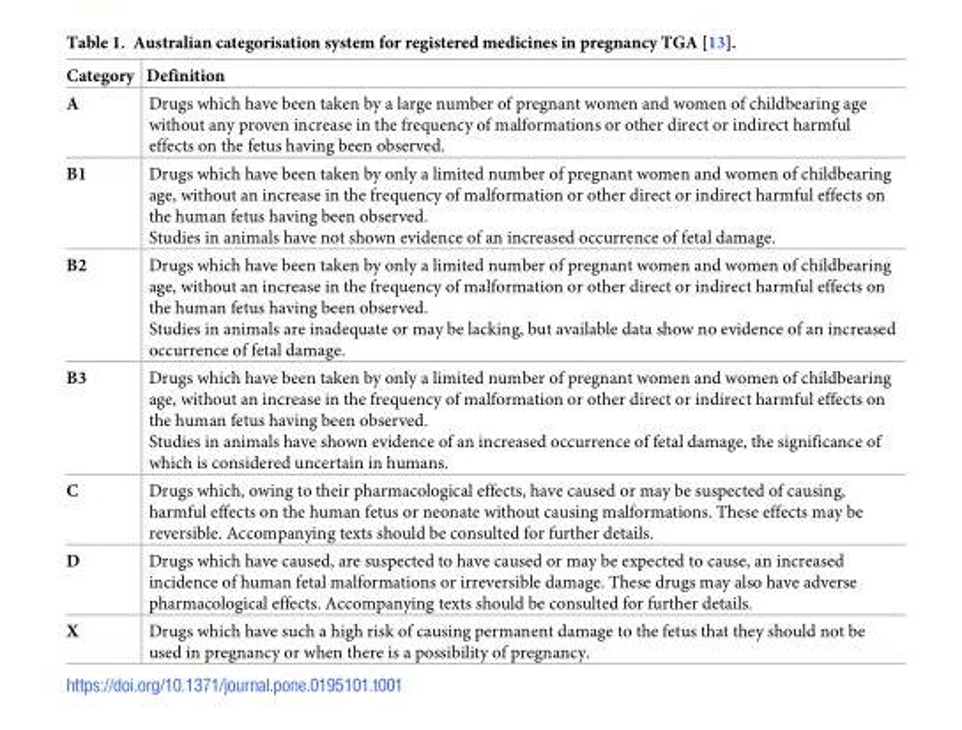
<table><thead><tr><td>Category</td><td>Definition</td></tr></thead><tbody><tr><td>A</td><td>Drugs which have been taken by a large number of pregnant women and women of childbearing age without any proven increase in the frequency of malformations or other direct or indirect harmful effects on the fetus having been observed.</td></tr><tr><td>B1</td><td>Drugs which have been taken by only a limited number of pregnant women and women of childbearing age, without an increase in the frequency of malformation or other direct or indirect harmful effects on the human fetus having been observed. Studies in animals have not shown evidence of an increased occurrence of fetal damage.</td></tr><tr><td>B2</td><td>Drugs which have been taken by only a limited number of pregnant women and women of childbearing age, without an increase in the frequency of malformation or other direct or indirect harmful effects on the human fetus having been observed. Studies in animals are inadequate or may be lacking, but available data show no evidence of an increased occurrence of fetal damage.</td></tr><tr><td>B3</td><td>Drugs which have been taken by only a limited number of pregnant women and women of childbearing age, without an increase in the frequency of malformation or other direct or indirect harmful effects on the human fetus having been observed. Studies in animals have shown evidence of an increased occurrence of fetal damage, the significance of which is considered uncertain in humans.</td></tr><tr><td>C</td><td>Drugs which, owing to their pharmacological effects, have caused or may be suspected of causing, harmful effects on the human fetus or neonate without causing malformations. These effects may be reversible. Accompanying texts should be consulted for further details.</td></tr><tr><td>D</td><td>Drugs which have caused, are suspected to have caused or may be expected to cause, an increased incidence of human fetal malformations or irreversible damage. These drugs may also have adverse pharmacological effects. Accompanying texts should be consulted for further details.</td></tr><tr><td>X</td><td>Drugs which have such a high risk of causing permanent damage to the fetus that they should not be used in pregnancy or when there is a possibility of pregnancy.</td></tr></tbody></table>